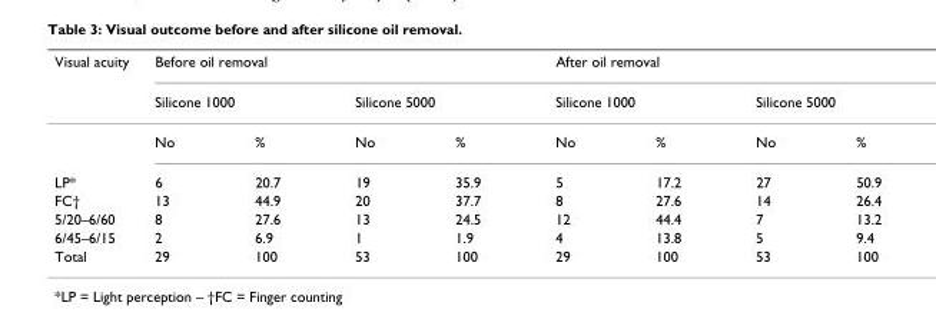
<table><thead><tr><td rowspan="3">Visual acuity</td><td colspan="4">Before oil removal</td><td colspan="4">After oil removal</td></tr><tr><td colspan="2">Silicone 1000</td><td colspan="2">Silicone 5000</td><td colspan="2">Silicone 1000</td><td colspan="2">Silicone 5000</td></tr><tr><td>No</td><td>%</td><td>No</td><td>%</td><td>No</td><td>%</td><td>No</td><td>%</td></tr></thead><tbody><tr><td>LP*</td><td>6</td><td>20.7</td><td>19</td><td>35.9</td><td>5</td><td>17.2</td><td>27</td><td>50.9</td></tr><tr><td>FC†</td><td>13</td><td>44.9</td><td>20</td><td>37.7</td><td>8</td><td>27.6</td><td>14</td><td>26.4</td></tr><tr><td>5/20–6/60</td><td>8</td><td>27.6</td><td>13</td><td>24.5</td><td>12</td><td>44.4</td><td>7</td><td>13.2</td></tr><tr><td>6/45–6/15</td><td>2</td><td>6.9</td><td>1</td><td>1.9</td><td>4</td><td>13.8</td><td>5</td><td>9.4</td></tr><tr><td>Total</td><td>29</td><td>100</td><td>53</td><td>100</td><td>29</td><td>100</td><td>53</td><td>100</td></tr></tbody></table>